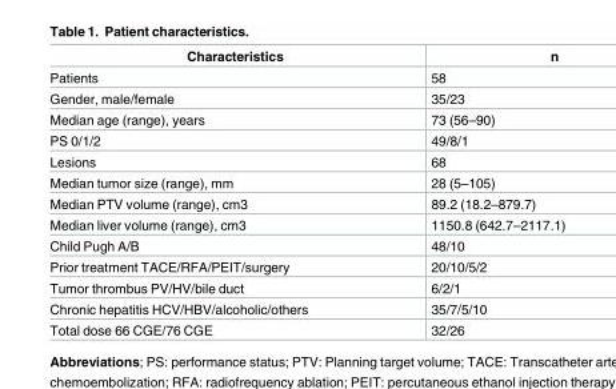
<table><thead><tr><td>Characteristics</td><td>n</td></tr></thead><tbody><tr><td>Patients</td><td>58</td></tr><tr><td>Gender, male/female</td><td>35/23</td></tr><tr><td>Median age (range), years</td><td>73 (56–90)</td></tr><tr><td>PS 0/1/2</td><td>49/8/1</td></tr><tr><td>Lesions</td><td>68</td></tr><tr><td>Median tumor size (range), mm</td><td>28 (5–105)</td></tr><tr><td>Median PTV volume (range), cm3</td><td>89.2 (18.2–879.7)</td></tr><tr><td>Median liver volume (range), cm3</td><td>1150.8 (642.7–2117.1)</td></tr><tr><td>Child Pugh A/B</td><td>48/10</td></tr><tr><td>Prior treatment TACE/RFA/PEIT/surgery</td><td>20/10/5/2</td></tr><tr><td>Tumor thrombus PV/HV/bile duct</td><td>6/2/1</td></tr><tr><td>Chronic hepatitis HCV/HBV/alcoholic/others</td><td>35/7/5/10</td></tr><tr><td>Total dose 66 CGE/76 CGE</td><td>32/26</td></tr></tbody></table>